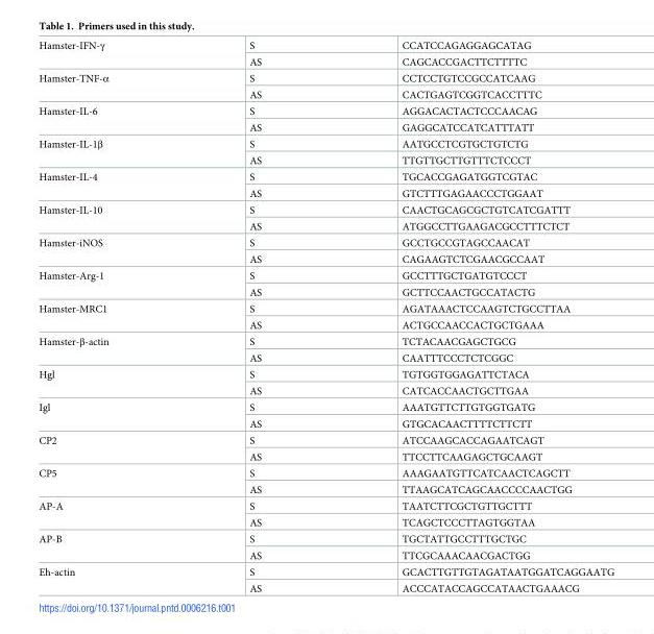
<table><tbody><tr><td rowspan="2">Hamster-IFN-γ</td><td>S</td><td>CCATCCAGAGGAGCATAG</td></tr><tr><td>AS</td><td>CAGCACCGACTTCTTTTC</td></tr><tr><td rowspan="2">Hamster-TNF-α</td><td>S</td><td>CCTCCTGTCCGCCATCAAG</td></tr><tr><td>AS</td><td>CACTGAGTCGGTCACCTTTC</td></tr><tr><td rowspan="2">Hamster-IL-6</td><td>S</td><td>AGGACACTACTCCCAACAG</td></tr><tr><td>AS</td><td>GAGGCATCCATCATTTATT</td></tr><tr><td rowspan="2">Hamster-IL-1β</td><td>S</td><td>AATGCCTCGTGCTGTCTG</td></tr><tr><td>AS</td><td>TTGTTGCTTGTTTCTCCCT</td></tr><tr><td rowspan="2">Hamster-IL-4</td><td>S</td><td>TGCACCGAGATGGTCGTAC</td></tr><tr><td>AS</td><td>GTCTTTGAGAACCCTGGAAT</td></tr><tr><td rowspan="2">Hamster-IL-10</td><td>S</td><td>CAACTGCAGCGCTGTCATCGATTT</td></tr><tr><td>AS</td><td>ATGGCCTTGAAGACGCCTTTCTCT</td></tr><tr><td rowspan="2">Hamster-iNOS</td><td>S</td><td>GCCTGCCGTAGCCAACAT</td></tr><tr><td>AS</td><td>CAGAAGTCTCGAACGCCAAT</td></tr><tr><td rowspan="2">Hamster-Arg-1</td><td>S</td><td>GCCTTTGCTGATGTCCCT</td></tr><tr><td>AS</td><td>GCTTCCAACTGCCATACTG</td></tr><tr><td rowspan="2">Hamster-MRC1</td><td>S</td><td>AGATAAACTCCAAGTCTGCCTTAA</td></tr><tr><td>AS</td><td>ACTGCCAACCACTGCTGAAA</td></tr><tr><td rowspan="2">Hamster-β-actin</td><td>S</td><td>TCTACAACGAGCTGCG</td></tr><tr><td>AS</td><td>CAATTTCCCTCTCGGC</td></tr><tr><td rowspan="2">Hgl</td><td>S</td><td>TGTGGTGGAGATTCTACA</td></tr><tr><td>AS</td><td>CATCACCAACTGCTTGAA</td></tr><tr><td rowspan="2">Igl</td><td>S</td><td>AAATGTTCTTGTGGTGATG</td></tr><tr><td>AS</td><td>GTGCACAACTTTTCTTCTT</td></tr><tr><td rowspan="2">CP2</td><td>S</td><td>ATCCAAGCACCAGAATCAGT</td></tr><tr><td>AS</td><td>TTCCTTCAAGAGCTGCAAGT</td></tr><tr><td rowspan="2">CP5</td><td>S</td><td>AAAGAATGTTCATCAACTCAGCTT</td></tr><tr><td>AS</td><td>TTAAGCATCAGCAACCCCAACTGG</td></tr><tr><td rowspan="2">AP-A</td><td>S</td><td>TAATCTTCGCTGTTGCTTT</td></tr><tr><td>AS</td><td>TCAGCTCCCTTAGTGGTAA</td></tr><tr><td rowspan="2">AP-B</td><td>S</td><td>TGCTATTGCCTTTGCTGC</td></tr><tr><td>AS</td><td>TTCGCAAACAACGACTGG</td></tr><tr><td rowspan="2">Eh-actin</td><td>S</td><td>GCACTTGTTGTAGATAATGGATCAGGAATG</td></tr><tr><td>AS</td><td>ACCCATACCAGCCATAACTGAAACG</td></tr></tbody></table>